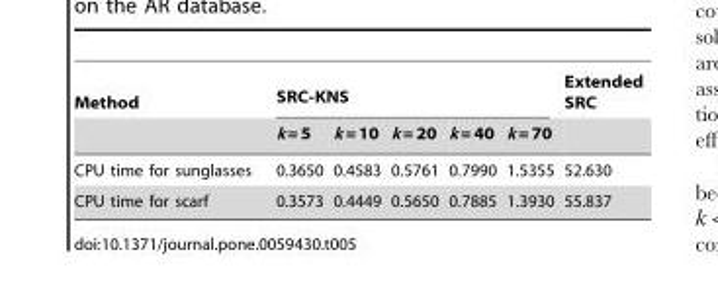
<table><thead><tr><td rowspan="2">Method</td><td colspan="5">SRC-KNS</td><td rowspan="2">Extended SRC</td></tr><tr><td>k = 5</td><td>k = 10</td><td>k = 20</td><td>k = 40</td><td>k = 70</td></tr></thead><tbody><tr><td>CPU time for sunglasses</td><td>0.3650</td><td>0.4583</td><td>0.5761</td><td>0.7990</td><td>1.5355</td><td>52.630</td></tr><tr><td>CPU time for scarf</td><td>0.3573</td><td>0.4449</td><td>0.5650</td><td>0.7885</td><td>1.3930</td><td>55.837</td></tr></tbody></table>